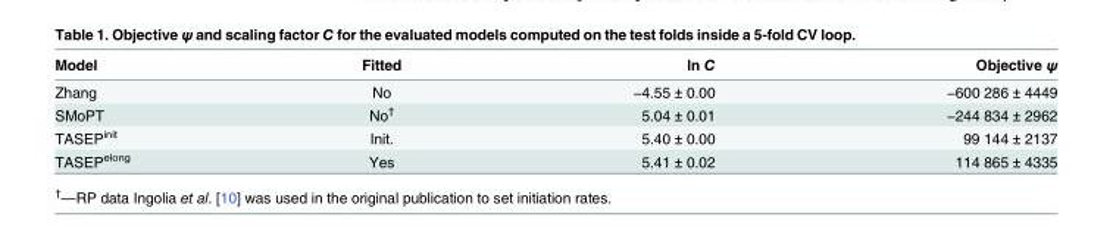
<table><thead><tr><td>Model</td><td>Fitted</td><td>ln C</td><td>Objective ψ</td></tr></thead><tbody><tr><td>Zhang</td><td>No</td><td>−4.55 ± 0.00</td><td>−600 286 ± 4449</td></tr><tr><td>SMoPT</td><td>No<sup>†</sup></td><td>5.04 ± 0.01</td><td>−244 834 ± 2962</td></tr><tr><td>TASEP<sup>init</sup></td><td>Init.</td><td>5.40 ± 0.00</td><td>99 144 ± 2137</td></tr><tr><td>TASEP<sup>elong</sup></td><td>Yes</td><td>5.41 ± 0.02</td><td>114 865 ± 4335</td></tr></tbody></table>